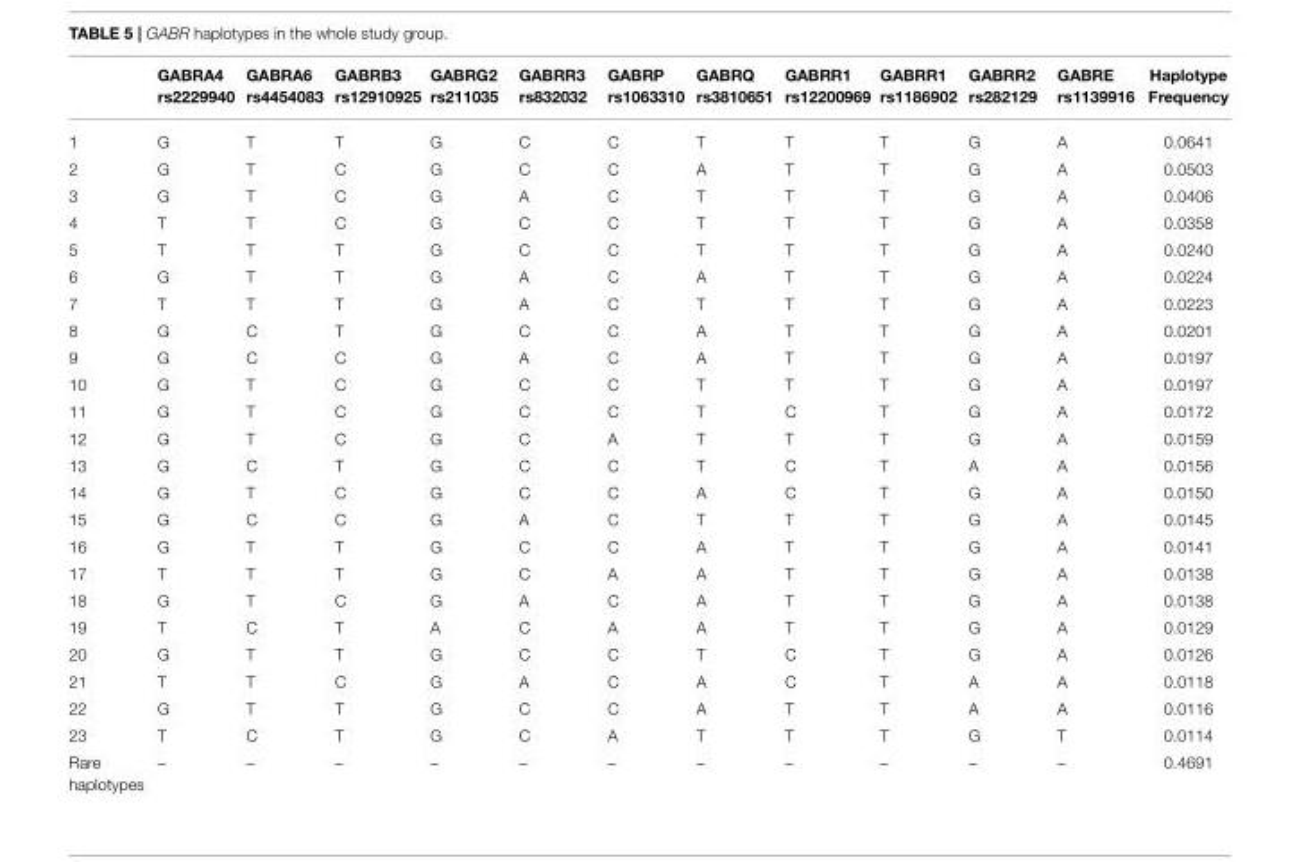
<table><thead><tr><td></td><td>GABRA4 rs2229940</td><td>GABRA6 rs4454083</td><td>GABRB3 rs12910925</td><td>GABRG2 rs211035</td><td>GABRR3 rs832032</td><td>GABRP rs1063310</td><td>GABRQ rs3810651</td><td>GABRR1 rs12200969</td><td>GABRR1 rs1186902</td><td>GABRR2 rs282129</td><td>GABRE rs1139916</td><td>Haplotype Frequency</td></tr></thead><tbody><tr><td>1</td><td>G</td><td>T</td><td>T</td><td>G</td><td>C</td><td>C</td><td>T</td><td>T</td><td>T</td><td>G</td><td>A</td><td>0.0641</td></tr><tr><td>2</td><td>G</td><td>T</td><td>C</td><td>G</td><td>C</td><td>C</td><td>A</td><td>T</td><td>T</td><td>G</td><td>A</td><td>0.0503</td></tr><tr><td>3</td><td>G</td><td>T</td><td>C</td><td>G</td><td>A</td><td>C</td><td>T</td><td>T</td><td>T</td><td>G</td><td>A</td><td>0.0406</td></tr><tr><td>4</td><td>T</td><td>T</td><td>C</td><td>G</td><td>C</td><td>C</td><td>T</td><td>T</td><td>T</td><td>G</td><td>A</td><td>0.0358</td></tr><tr><td>5</td><td>T</td><td>T</td><td>T</td><td>G</td><td>C</td><td>C</td><td>T</td><td>T</td><td>T</td><td>G</td><td>A</td><td>0.0240</td></tr><tr><td>6</td><td>G</td><td>T</td><td>T</td><td>G</td><td>A</td><td>C</td><td>A</td><td>T</td><td>T</td><td>G</td><td>A</td><td>0.0224</td></tr><tr><td>7</td><td>T</td><td>T</td><td>T</td><td>G</td><td>A</td><td>C</td><td>T</td><td>T</td><td>T</td><td>G</td><td>A</td><td>0.0223</td></tr><tr><td>8</td><td>G</td><td>C</td><td>T</td><td>G</td><td>C</td><td>C</td><td>A</td><td>T</td><td>T</td><td>G</td><td>A</td><td>0.0201</td></tr><tr><td>9</td><td>G</td><td>C</td><td>C</td><td>G</td><td>A</td><td>C</td><td>A</td><td>T</td><td>T</td><td>G</td><td>A</td><td>0.0197</td></tr><tr><td>10</td><td>G</td><td>T</td><td>C</td><td>G</td><td>C</td><td>C</td><td>T</td><td>T</td><td>T</td><td>G</td><td>A</td><td>0.0197</td></tr><tr><td>11</td><td>G</td><td>T</td><td>C</td><td>G</td><td>C</td><td>C</td><td>T</td><td>C</td><td>T</td><td>G</td><td>A</td><td>0.0172</td></tr><tr><td>12</td><td>G</td><td>T</td><td>C</td><td>G</td><td>C</td><td>A</td><td>T</td><td>T</td><td>T</td><td>G</td><td>A</td><td>0.0159</td></tr><tr><td>13</td><td>G</td><td>C</td><td>T</td><td>G</td><td>C</td><td>C</td><td>T</td><td>C</td><td>T</td><td>A</td><td>A</td><td>0.0156</td></tr><tr><td>14</td><td>G</td><td>T</td><td>C</td><td>G</td><td>C</td><td>C</td><td>A</td><td>C</td><td>T</td><td>G</td><td>A</td><td>0.0150</td></tr><tr><td>15</td><td>G</td><td>C</td><td>C</td><td>G</td><td>A</td><td>C</td><td>T</td><td>T</td><td>T</td><td>G</td><td>A</td><td>0.0145</td></tr><tr><td>16</td><td>G</td><td>T</td><td>T</td><td>G</td><td>C</td><td>C</td><td>A</td><td>T</td><td>T</td><td>G</td><td>A</td><td>0.0141</td></tr><tr><td>17</td><td>T</td><td>T</td><td>T</td><td>G</td><td>C</td><td>A</td><td>A</td><td>T</td><td>T</td><td>G</td><td>A</td><td>0.0138</td></tr><tr><td>18</td><td>G</td><td>T</td><td>C</td><td>G</td><td>A</td><td>C</td><td>A</td><td>T</td><td>T</td><td>G</td><td>A</td><td>0.0138</td></tr><tr><td>19</td><td>T</td><td>C</td><td>T</td><td>A</td><td>C</td><td>A</td><td>A</td><td>T</td><td>T</td><td>G</td><td>A</td><td>0.0129</td></tr><tr><td>20</td><td>G</td><td>T</td><td>T</td><td>G</td><td>C</td><td>C</td><td>T</td><td>C</td><td>T</td><td>G</td><td>A</td><td>0.0126</td></tr><tr><td>21</td><td>T</td><td>T</td><td>C</td><td>G</td><td>A</td><td>C</td><td>A</td><td>C</td><td>T</td><td>A</td><td>A</td><td>0.0118</td></tr><tr><td>22</td><td>G</td><td>T</td><td>T</td><td>G</td><td>C</td><td>C</td><td>A</td><td>T</td><td>T</td><td>A</td><td>A</td><td>0.0116</td></tr><tr><td>23</td><td>T</td><td>C</td><td>T</td><td>G</td><td>C</td><td>A</td><td>T</td><td>T</td><td>T</td><td>G</td><td>T</td><td>0.0114</td></tr><tr><td>Rare haplotypes</td><td>–</td><td>–</td><td>–</td><td>–</td><td>–</td><td>–</td><td>–</td><td>–</td><td>–</td><td>–</td><td>–</td><td>0.4691</td></tr></tbody></table>